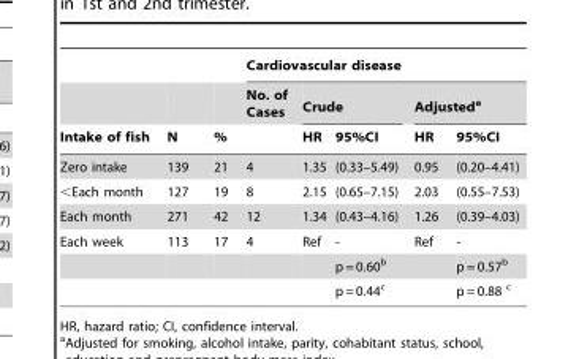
<table><thead><tr><td rowspan="3">Intake of fish</td><td rowspan="3">N</td><td rowspan="3">%</td><td colspan="5">Cardiovascular disease</td></tr><tr><td rowspan="2">No. of Cases</td><td colspan="2">Crude</td><td colspan="2">Adjusted<sup>a</sup></td></tr><tr><td>HR</td><td>95%CI</td><td>HR</td><td>95%CI</td></tr></thead><tbody><tr><td>Zero intake</td><td>139</td><td>21</td><td>4</td><td>1.35</td><td>(0.33–5.49)</td><td>0.95</td><td>(0.20–4.41)</td></tr><tr><td>&lt;Each month</td><td>127</td><td>19</td><td>8</td><td>2.15</td><td>(0.65–7.15)</td><td>2.03</td><td>(0.55–7.53)</td></tr><tr><td>Each month</td><td>271</td><td>42</td><td>12</td><td>1.34</td><td>(0.43–4.16)</td><td>1.26</td><td>(0.39–4.03)</td></tr><tr><td rowspan="3">Each week</td><td>113</td><td>17</td><td>4</td><td>Ref</td><td>-</td><td>Ref</td><td>-</td></tr><tr><td></td><td></td><td></td><td></td><td>p = 0.60<sup>b</sup></td><td></td><td>p = 0.57<sup>b</sup></td></tr><tr><td></td><td></td><td></td><td></td><td>p = 0.44<sup>c</sup></td><td></td><td>p = 0.88 c</td></tr></tbody></table>